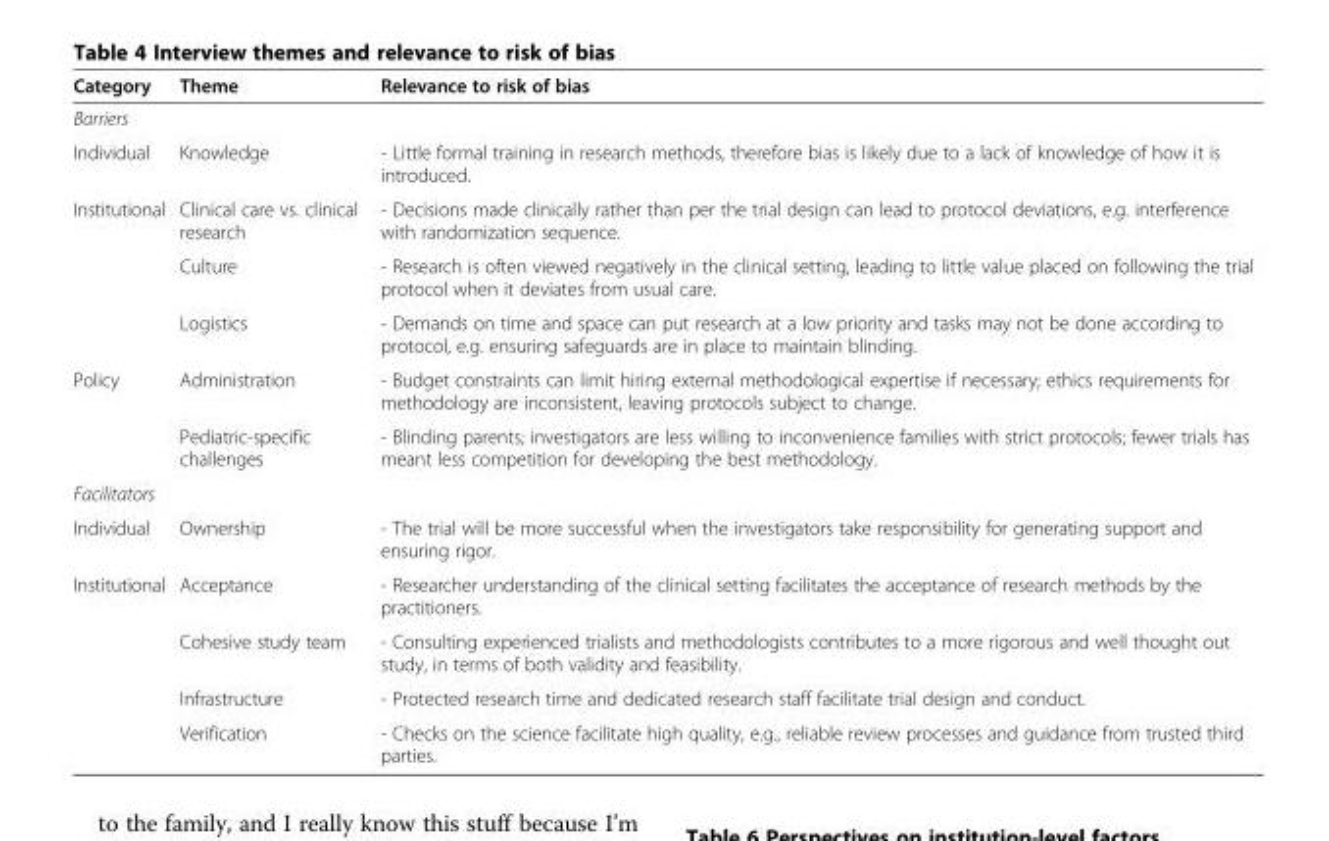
<table><thead><tr><td>Category</td><td>Theme</td><td>Relevance to risk of bias</td></tr></thead><tbody><tr><td colspan="3">Barriers</td></tr><tr><td>Individual</td><td>Knowledge</td><td>- Little formal training in research methods, therefore bias is likely due to a lack of knowledge of how it is introduced.</td></tr><tr><td rowspan="3">Institutional</td><td>Clinical care vs. clinical research</td><td>- Decisions made clinically rather than per the trial design can lead to protocol deviations, e.g. interference with randomization sequence.</td></tr><tr><td>Culture</td><td>- Research is often viewed negatively in the clinical setting, leading to little value placed on following the trial protocol when it deviates from usual care.</td></tr><tr><td>Logistics</td><td>- Demands on time and space can put research at a low priority and tasks may not be done according to protocol, e.g. ensuring safeguards are in place to maintain blinding.</td></tr><tr><td rowspan="2">Policy</td><td>Administration</td><td>- Budget constraints can limit hiring external methodological expertise if necessary; ethics requirements for methodology are inconsistent, leaving protocols subject to change.</td></tr><tr><td>Pediatric-specific challenges</td><td>- Blinding parents; investigators are less willing to inconvenience families with strict protocols; fewer trials has meant less competition for developing the best methodology.</td></tr><tr><td colspan="3">Facilitators</td></tr><tr><td>Individual</td><td>Ownership</td><td>- The trial will be more successful when the investigators take responsibility for generating support and ensuring rigor.</td></tr><tr><td rowspan="4">Institutional</td><td>Acceptance</td><td>- Researcher understanding of the clinical setting facilitates the acceptance of research methods by the practitioners.</td></tr><tr><td>Cohesive study team</td><td>- Consulting experienced trialists and methodologists contributes to a more rigorous and well thought out study, in terms of both validity and feasibility.</td></tr><tr><td>Infrastructure</td><td>- Protected research time and dedicated research staff facilitate trial design and conduct.</td></tr><tr><td>Verification</td><td>- Checks on the science facilitate high quality, e.g., reliable review processes and guidance from trusted third parties.</td></tr></tbody></table>